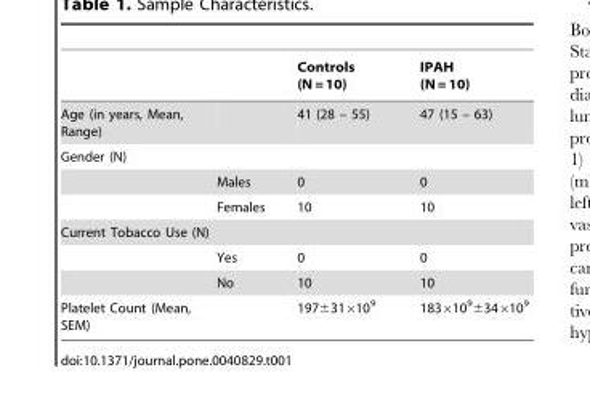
<table><thead><tr><td></td><td></td><td>Controls (N = 10)</td><td>IPAH (N = 10)</td></tr></thead><tbody><tr><td>Age (in years, Mean, Range)</td><td></td><td>41 (28 – 55)</td><td>47 (15 – 63)</td></tr><tr><td colspan="4">Gender (N)</td></tr><tr><td></td><td>Males</td><td>0</td><td>0</td></tr><tr><td></td><td>Females</td><td>10</td><td>10</td></tr><tr><td colspan="4">Current Tobacco Use (N)</td></tr><tr><td></td><td>Yes</td><td>0</td><td>0</td></tr><tr><td></td><td>No</td><td>10</td><td>10</td></tr><tr><td>Platelet Count (Mean, SEM)</td><td></td><td>197±31×10<sup>9</sup></td><td>183×10<sup>9</sup>±34×10<sup>9</sup></td></tr></tbody></table>